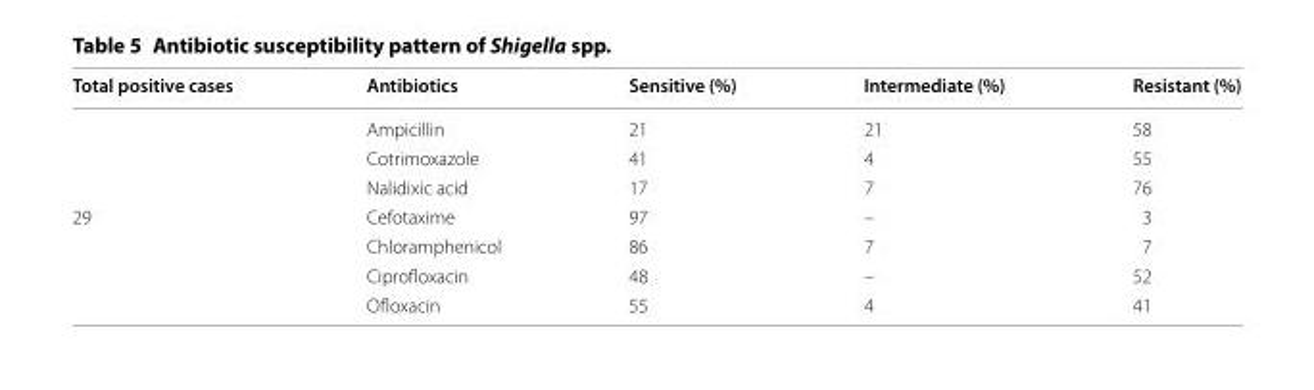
<table><thead><tr><td>Total positive cases</td><td>Antibiotics</td><td>Sensitive (%)</td><td>Intermediate (%)</td><td>Resistant (%)</td></tr></thead><tbody><tr><td></td><td>Ampicillin</td><td>21</td><td>21</td><td>58</td></tr><tr><td></td><td>Cotrimoxazole</td><td>41</td><td>4</td><td>55</td></tr><tr><td></td><td>Nalidixic acid</td><td>17</td><td>7</td><td>76</td></tr><tr><td rowspan="4">29</td><td>Cefotaxime</td><td>97</td><td>–</td><td>3</td></tr><tr><td>Chloramphenicol</td><td>86</td><td>7</td><td>7</td></tr><tr><td>Ciprofloxacin</td><td>48</td><td>–</td><td>52</td></tr><tr><td>Ofloxacin</td><td>55</td><td>4</td><td>41</td></tr></tbody></table>